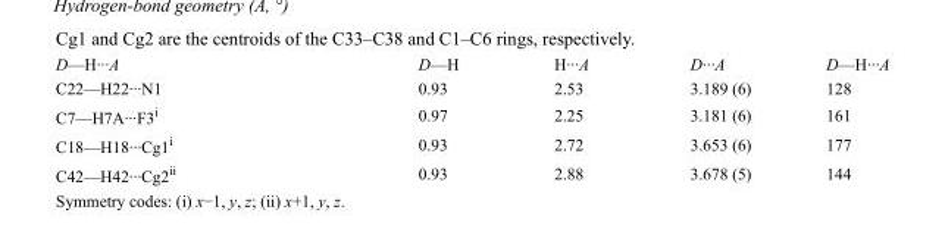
<table><tbody><tr><td>D—H···A</td><td>D—H</td><td>H···A</td><td>D···A</td><td>D—H···A</td></tr><tr><td>C22—H22···N1</td><td>0.93</td><td>2.53</td><td>3.189 (6)</td><td>128</td></tr><tr><td>C7—H7A···F3<sup>i</sup></td><td>0.97</td><td>2.25</td><td>3.181 (6)</td><td>161</td></tr><tr><td>C18—H18···Cg1<sup>i</sup></td><td>0.93</td><td>2.72</td><td>3.653 (6)</td><td>177</td></tr><tr><td>C42—H42···Cg2<sup>ii</sup></td><td>0.93</td><td>2.88</td><td>3.678 (5)</td><td>144</td></tr></tbody></table>